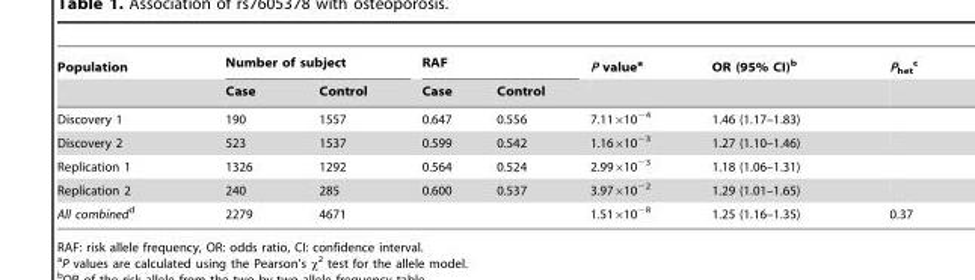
<table><thead><tr><td rowspan="2">Population</td><td colspan="2">Number of subject</td><td colspan="2">RAF</td><td rowspan="2">P value<sup>a</sup></td><td rowspan="2">OR (95% CI)<sup>b</sup></td><td rowspan="2">P<sub>het</sub> c</td></tr><tr><td>Case</td><td>Control</td><td>Case</td><td>Control</td></tr></thead><tbody><tr><td>Discovery 1</td><td>190</td><td>1557</td><td>0.647</td><td>0.556</td><td>7.11×10<sup>−4</sup></td><td>1.46 (1.17–1.83)</td><td></td></tr><tr><td>Discovery 2</td><td>523</td><td>1537</td><td>0.599</td><td>0.542</td><td>1.16×10<sup>−3</sup></td><td>1.27 (1.10–1.46)</td><td></td></tr><tr><td>Replication 1</td><td>1326</td><td>1292</td><td>0.564</td><td>0.524</td><td>2.99×10<sup>−3</sup></td><td>1.18 (1.06–1.31)</td><td></td></tr><tr><td>Replication 2</td><td>240</td><td>285</td><td>0.600</td><td>0.537</td><td>3.97×10<sup>−2</sup></td><td>1.29 (1.01–1.65)</td><td></td></tr><tr><td>All combinedd</td><td>2279</td><td>4671</td><td></td><td></td><td>1.51×10<sup>−8</sup></td><td>1.25 (1.16–1.35)</td><td>0.37</td></tr></tbody></table>